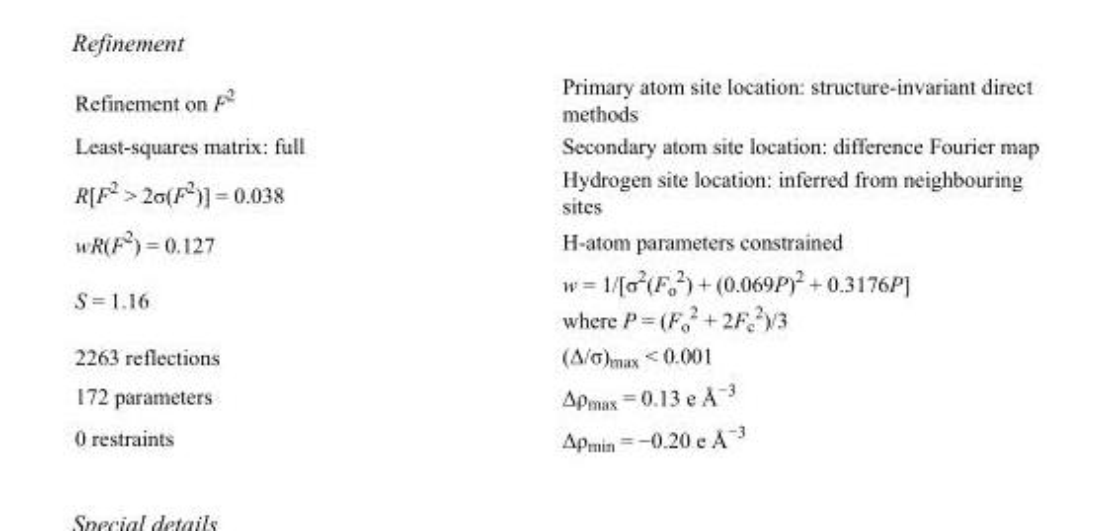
<table><tbody><tr><td>Refinement on F<sup>2</sup></td><td>Primary atom site location: structure-invariant direct methods</td></tr><tr><td>Least-squares matrix: full</td><td>Secondary atom site location: difference Fourier map</td></tr><tr><td>R[F<sup>2</sup> &gt; 2σ(F<sup>2</sup>)] = 0.038</td><td>Hydrogen site location: inferred from neighbouring sites</td></tr><tr><td>wR(F<sup>2</sup>) = 0.127</td><td>H-atom parameters constrained</td></tr><tr><td>S = 1.16</td><td>w = 1/[σ<sup>2</sup>(F<sub>o</sub> <sup>2</sup>) + (0.069P)<sup>2</sup> + 0.3176P] where P = (F<sub>o</sub> <sup>2</sup> + 2F<sub>c</sub> <sup>2</sup>)/3</td></tr><tr><td>2263 reflections</td><td>(Δ/σ)<sub>max</sub> &lt; 0.001</td></tr><tr><td>172 parameters</td><td>Δρ<sub>max</sub> = 0.13 e Å<sup>−3</sup></td></tr><tr><td>0 restraints</td><td>Δρ<sub>min</sub> = −0.20 e Å<sup>−3</sup></td></tr></tbody></table>